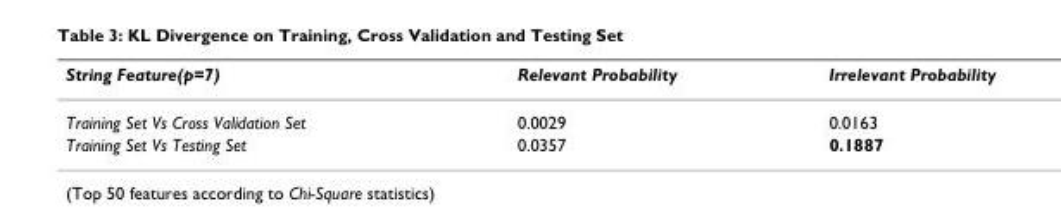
<table><thead><tr><td>String Feature(p=7)</td><td>Relevant Probability</td><td>Irrelevant Probability</td></tr></thead><tbody><tr><td>Training Set Vs Cross Validation Set</td><td>0.0029</td><td>0.0163</td></tr><tr><td>Training Set Vs Testing Set</td><td>0.0357</td><td>0.1887</td></tr></tbody></table>